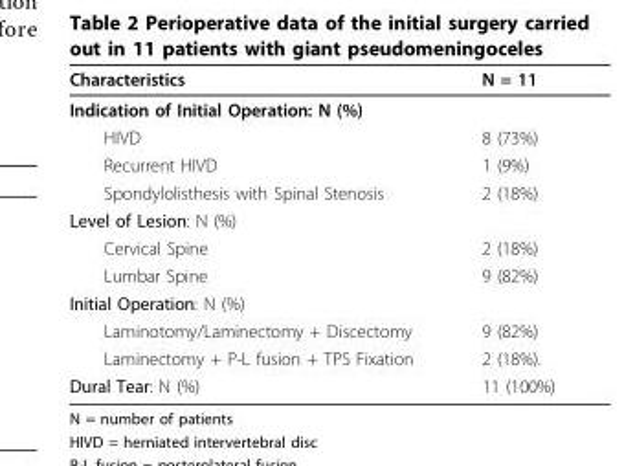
<table><thead><tr><td>Characteristics</td><td>N = 11</td></tr></thead><tbody><tr><td colspan="2">Indication of Initial Operation: N (%)</td></tr><tr><td>HIVD</td><td>8 (73%)</td></tr><tr><td>Recurrent HIVD</td><td>1 (9%)</td></tr><tr><td>Spondylolisthesis with Spinal Stenosis</td><td>2 (18%)</td></tr><tr><td colspan="2">Level of Lesion: N (%)</td></tr><tr><td>Cervical Spine</td><td>2 (18%)</td></tr><tr><td>Lumbar Spine</td><td>9 (82%)</td></tr><tr><td colspan="2">Initial Operation: N (%)</td></tr><tr><td>Laminotomy/Laminectomy + Discectomy</td><td>9 (82%)</td></tr><tr><td>Laminectomy + P-L fusion + TPS Fixation</td><td>2 (18%).</td></tr><tr><td>Dural Tear: N (%)</td><td>11 (100%)</td></tr></tbody></table>